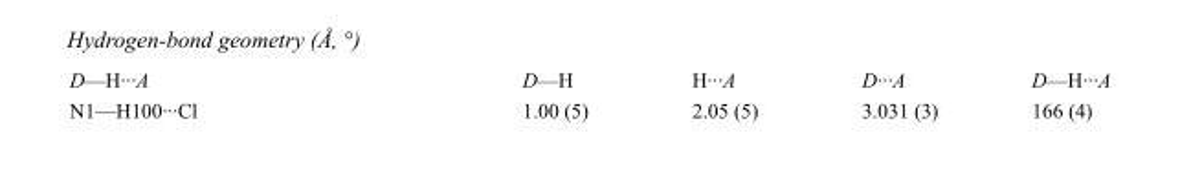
<table><tbody><tr><td>D—H···A</td><td>D—H</td><td>H···A</td><td>D···A</td><td>D—H···A</td></tr><tr><td>N1—H100···Cl</td><td>1.00 (5)</td><td>2.05 (5)</td><td>3.031 (3)</td><td>166 (4)</td></tr></tbody></table>